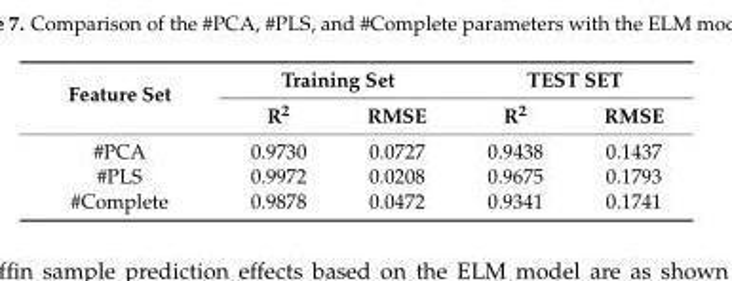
<table><thead><tr><td rowspan="2">Feature Set</td><td colspan="2">Training Set</td><td colspan="2">TEST SET</td></tr><tr><td>R<sup>2</sup></td><td>RMSE</td><td>R<sup>2</sup></td><td>RMSE</td></tr></thead><tbody><tr><td>#PCA</td><td>0.9730</td><td>0.0727</td><td>0.9438</td><td>0.1437</td></tr><tr><td>#PLS</td><td>0.9972</td><td>0.0208</td><td>0.9675</td><td>0.1793</td></tr><tr><td>#Complete</td><td>0.9878</td><td>0.0472</td><td>0.9341</td><td>0.1741</td></tr></tbody></table>